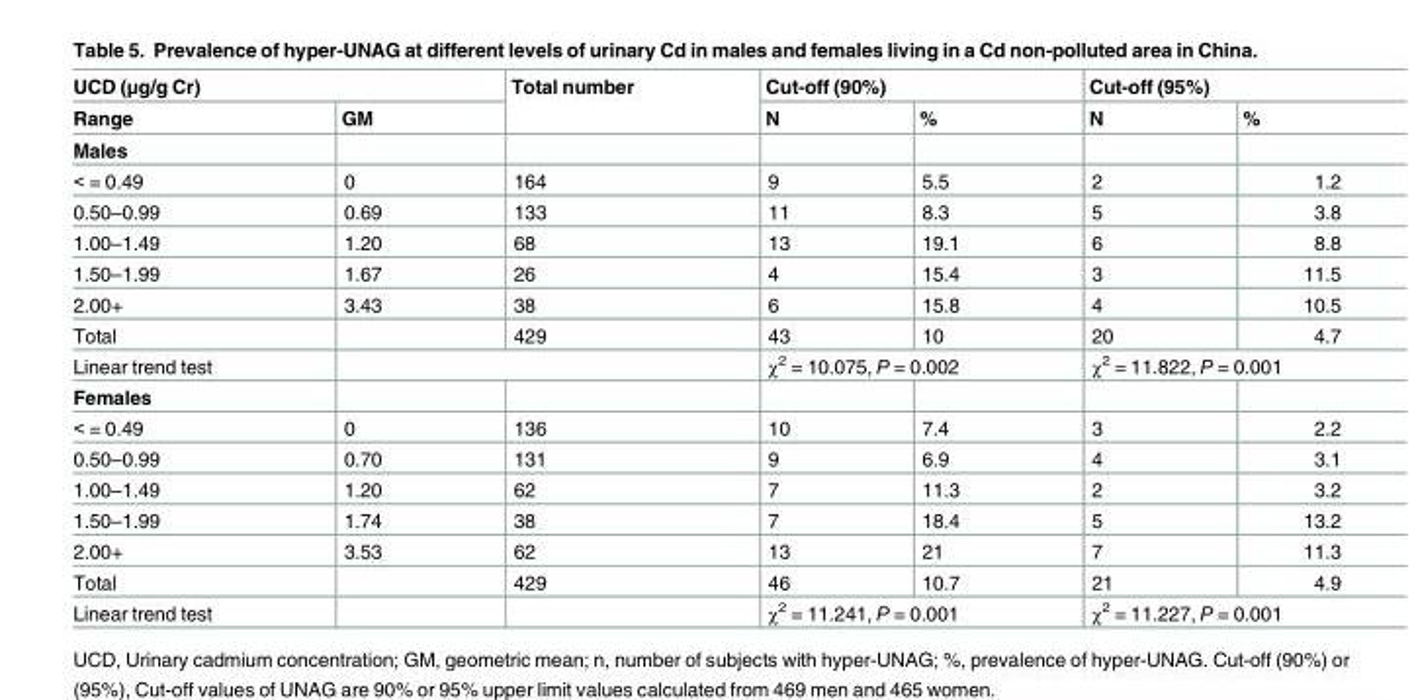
<table><thead><tr><td colspan="2">UCD (μg/g Cr)</td><td rowspan="2">Total number</td><td colspan="2">Cut-off (90%)</td><td colspan="2">Cut-off (95%)</td></tr><tr><td>Range</td><td>GM</td><td>N</td><td>%</td><td>N</td><td>%</td></tr></thead><tbody><tr><td colspan="7">Males</td></tr><tr><td>&lt; = 0.49</td><td>0</td><td>164</td><td>9</td><td>5.5</td><td>2</td><td>1.2</td></tr><tr><td>0.50–0.99</td><td>0.69</td><td>133</td><td>11</td><td>8.3</td><td>5</td><td>3.8</td></tr><tr><td>1.00–1.49</td><td>1.20</td><td>68</td><td>13</td><td>19.1</td><td>6</td><td>8.8</td></tr><tr><td>1.50–1.99</td><td>1.67</td><td>26</td><td>4</td><td>15.4</td><td>3</td><td>11.5</td></tr><tr><td>2.00+</td><td>3.43</td><td>38</td><td>6</td><td>15.8</td><td>4</td><td>10.5</td></tr><tr><td>Total</td><td></td><td>429</td><td>43</td><td>10</td><td>20</td><td>4.7</td></tr><tr><td>Linear trend test</td><td colspan="2"></td><td colspan="2">χ<sup>2</sup> = 10.075, P = 0.002</td><td colspan="2">χ<sup>2</sup> = 11.822, P = 0.001</td></tr><tr><td colspan="7">Females</td></tr><tr><td>&lt; = 0.49</td><td>0</td><td>136</td><td>10</td><td>7.4</td><td>3</td><td>2.2</td></tr><tr><td>0.50–0.99</td><td>0.70</td><td>131</td><td>9</td><td>6.9</td><td>4</td><td>3.1</td></tr><tr><td>1.00–1.49</td><td>1.20</td><td>62</td><td>7</td><td>11.3</td><td>2</td><td>3.2</td></tr><tr><td>1.50–1.99</td><td>1.74</td><td>38</td><td>7</td><td>18.4</td><td>5</td><td>13.2</td></tr><tr><td>2.00+</td><td>3.53</td><td>62</td><td>13</td><td>21</td><td>7</td><td>11.3</td></tr><tr><td>Total</td><td></td><td>429</td><td>46</td><td>10.7</td><td>21</td><td>4.9</td></tr><tr><td>Linear trend test</td><td></td><td></td><td colspan="2">χ<sup>2</sup> = 11.241, P = 0.001</td><td colspan="2">χ<sup>2</sup> = 11.227, P = 0.001</td></tr></tbody></table>